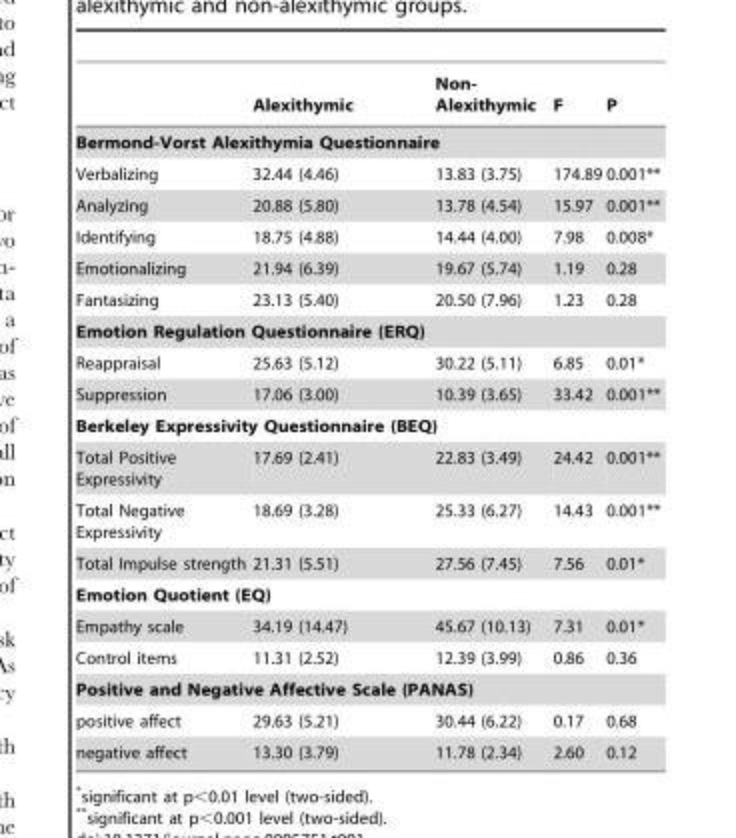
<table><thead><tr><td></td><td>Alexithymic</td><td>Non- Alexithymic</td><td>F</td><td>P</td></tr></thead><tbody><tr><td colspan="5">Bermond-Vorst Alexithymia Questionnaire</td></tr><tr><td>Verbalizing</td><td>32.44 (4.46)</td><td>13.83 (3.75)</td><td>174.89</td><td>0.001**</td></tr><tr><td>Analyzing</td><td>20.88 (5.80)</td><td>13.78 (4.54)</td><td>15.97</td><td>0.001**</td></tr><tr><td>Identifying</td><td>18.75 (4.88)</td><td>14.44 (4.00)</td><td>7.98</td><td>0.008*</td></tr><tr><td>Emotionalizing</td><td>21.94 (6.39)</td><td>19.67 (5.74)</td><td>1.19</td><td>0.28</td></tr><tr><td>Fantasizing</td><td>23.13 (5.40)</td><td>20.50 (7.96)</td><td>1.23</td><td>0.28</td></tr><tr><td colspan="5">Emotion Regulation Questionnaire (ERQ)</td></tr><tr><td>Reappraisal</td><td>25.63 (5.12)</td><td>30.22 (5.11)</td><td>6.85</td><td>0.01*</td></tr><tr><td>Suppression</td><td>17.06 (3.00)</td><td>10.39 (3.65)</td><td>33.42</td><td>0.001**</td></tr><tr><td colspan="5">Berkeley Expressivity Questionnaire (BEQ)</td></tr><tr><td>Total Positive Expressivity</td><td>17.69 (2.41)</td><td>22.83 (3.49)</td><td>24.42</td><td>0.001**</td></tr><tr><td>Total Negative Expressivity</td><td>18.69 (3.28)</td><td>25.33 (6.27)</td><td>14.43</td><td>0.001**</td></tr><tr><td>Total Impulse strength</td><td>21.31 (5.51)</td><td>27.56 (7.45)</td><td>7.56</td><td>0.01*</td></tr><tr><td colspan="5">Emotion Quotient (EQ)</td></tr><tr><td>Empathy scale</td><td>34.19 (14.47)</td><td>45.67 (10.13)</td><td>7.31</td><td>0.01*</td></tr><tr><td>Control items</td><td>11.31 (2.52)</td><td>12.39 (3.99)</td><td>0.86</td><td>0.36</td></tr><tr><td colspan="5">Positive and Negative Affective Scale (PANAS)</td></tr><tr><td>positive affect</td><td>29.63 (5.21)</td><td>30.44 (6.22)</td><td>0.17</td><td>0.68</td></tr><tr><td>negative affect</td><td>13.30 (3.79)</td><td>11.78 (2.34)</td><td>2.60</td><td>0.12</td></tr></tbody></table>